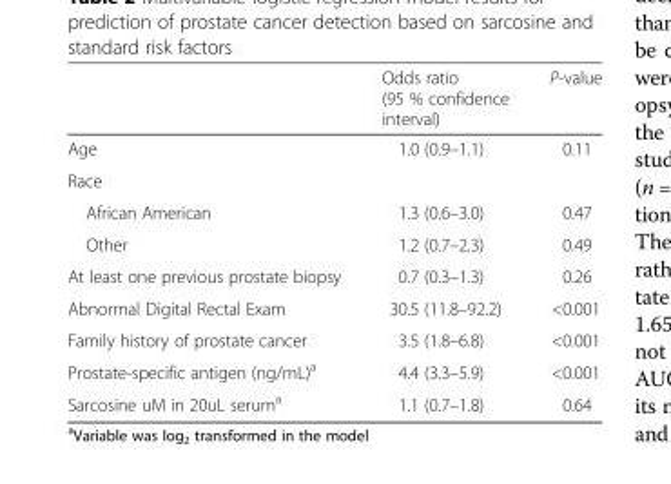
<table><thead><tr><td></td><td>Odds ratio (95 % confidence interval)</td><td>P-value</td></tr></thead><tbody><tr><td>Age</td><td>1.0 (0.9–1.1)</td><td>0.11</td></tr><tr><td colspan="3">Race</td></tr><tr><td>African American</td><td>1.3 (0.6–3.0)</td><td>0.47</td></tr><tr><td>Other</td><td>1.2 (0.7–2.3)</td><td>0.49</td></tr><tr><td>At least one previous prostate biopsy</td><td>0.7 (0.3–1.3)</td><td>0.26</td></tr><tr><td>Abnormal Digital Rectal Exam</td><td>30.5 (11.8–92.2)</td><td>&lt;0.001</td></tr><tr><td>Family history of prostate cancer</td><td>3.5 (1.8–6.8)</td><td>&lt;0.001</td></tr><tr><td>Prostate-specific antigen (ng/mL)<sup>a</sup></td><td>4.4 (3.3–5.9)</td><td>&lt;0.001</td></tr><tr><td>Sarcosine uM in 20uL serum<sup>a</sup></td><td>1.1 (0.7–1.8)</td><td>0.64</td></tr></tbody></table>